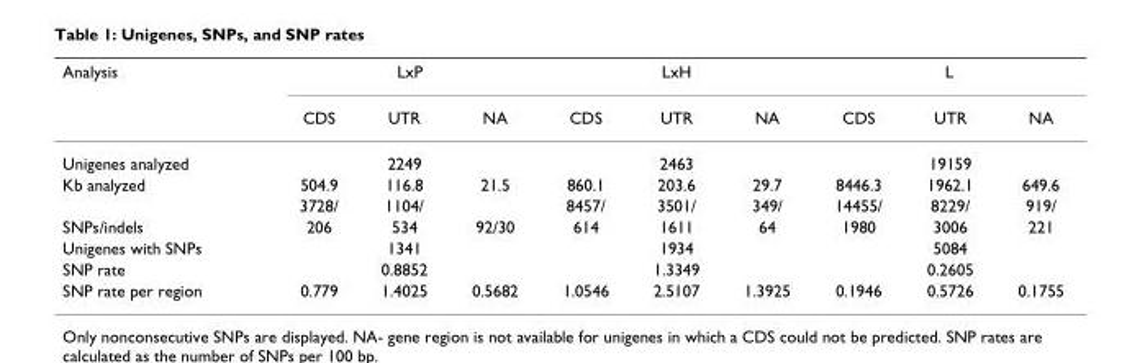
<table><thead><tr><td rowspan="2">Analysis</td><td colspan="3">LxP</td><td colspan="3">LxH</td><td colspan="3">L</td></tr><tr><td>CDS</td><td>UTR</td><td>NA</td><td>CDS</td><td>UTR</td><td>NA</td><td>CDS</td><td>UTR</td><td>NA</td></tr></thead><tbody><tr><td>Unigenes analyzed</td><td></td><td>2249</td><td></td><td></td><td>2463</td><td></td><td></td><td>19159</td><td></td></tr><tr><td rowspan="2">Kb analyzed</td><td>504.9</td><td>116.8</td><td>21.5</td><td>860.1</td><td>203.6</td><td>29.7</td><td>8446.3</td><td>1962.1</td><td>649.6</td></tr><tr><td>3728/</td><td>1104/</td><td></td><td>8457/</td><td>3501/</td><td>349/</td><td>14455/</td><td>8229/</td><td>919/</td></tr><tr><td>SNPs/indels</td><td>206</td><td>534</td><td>92/30</td><td>614</td><td>1611</td><td>64</td><td>1980</td><td>3006</td><td>221</td></tr><tr><td>Unigenes with SNPs</td><td></td><td>1341</td><td></td><td></td><td>1934</td><td></td><td></td><td>5084</td><td></td></tr><tr><td>SNP rate</td><td></td><td>0.8852</td><td></td><td></td><td>1.3349</td><td></td><td></td><td>0.2605</td><td></td></tr><tr><td>SNP rate per region</td><td>0.779</td><td>1.4025</td><td>0.5682</td><td>1.0546</td><td>2.5107</td><td>1.3925</td><td>0.1946</td><td>0.5726</td><td>0.1755</td></tr></tbody></table>